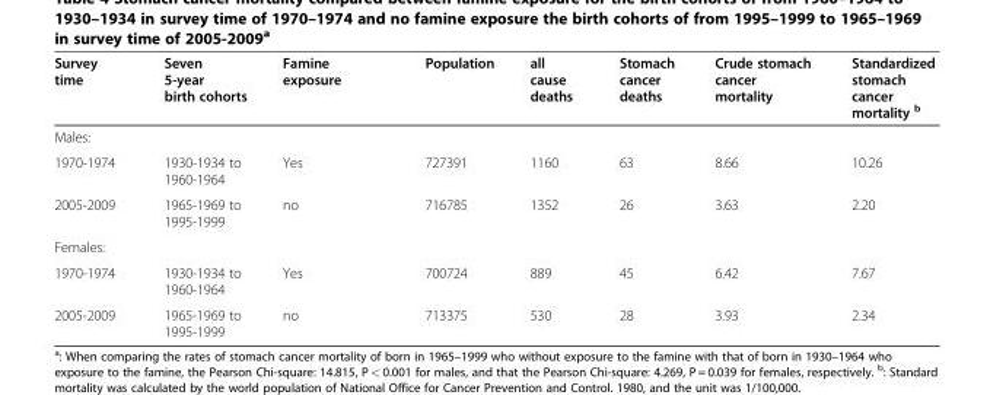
<table><thead><tr><td>Survey time</td><td>Seven 5-year birth cohorts</td><td>Famine exposure</td><td>Population</td><td>all cause deaths</td><td>Stomach cancer deaths</td><td>Crude stomach cancer mortality</td><td>Standardized stomach cancer mortality <sup>b</sup></td></tr></thead><tbody><tr><td colspan="8">Males:</td></tr><tr><td>1970-1974</td><td>1930-1934 to 1960-1964</td><td>Yes</td><td>727391</td><td>1160</td><td>63</td><td>8.66</td><td>10.26</td></tr><tr><td>2005-2009</td><td>1965-1969 to 1995-1999</td><td>no</td><td>716785</td><td>1352</td><td>26</td><td>3.63</td><td>2.20</td></tr><tr><td colspan="8">Females:</td></tr><tr><td>1970-1974</td><td>1930-1934 to 1960-1964</td><td>Yes</td><td>700724</td><td>889</td><td>45</td><td>6.42</td><td>7.67</td></tr><tr><td>2005-2009</td><td>1965-1969 to 1995-1999</td><td>no</td><td>713375</td><td>530</td><td>28</td><td>3.93</td><td>2.34</td></tr></tbody></table>